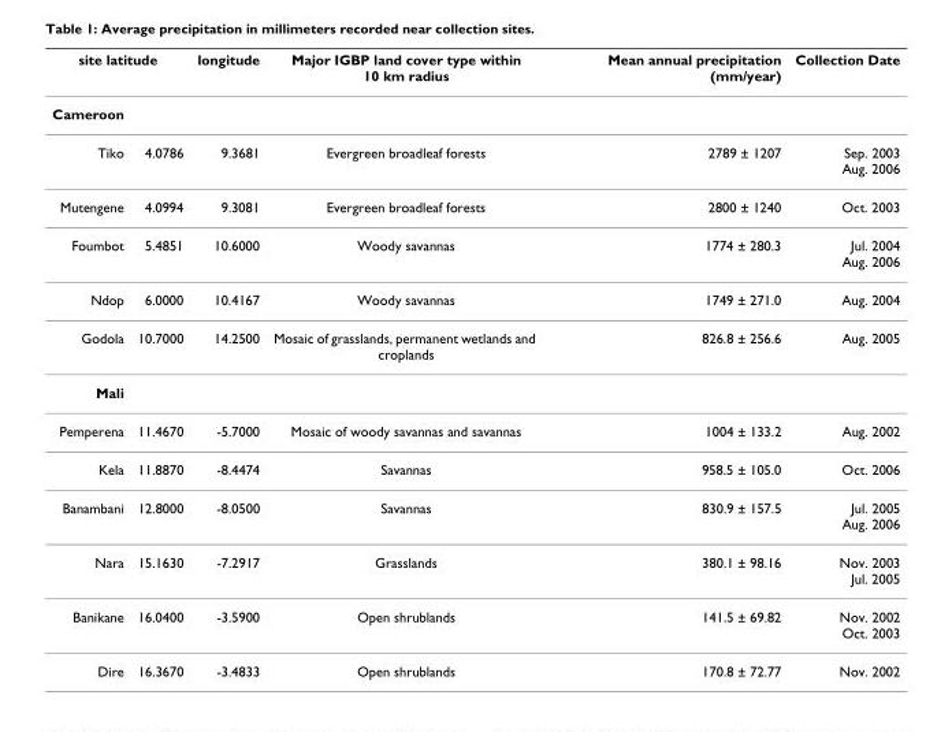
<table><thead><tr><td colspan="2">site latitude</td><td rowspan="2">longitude</td><td rowspan="2">Major IGBP land cover type within 10 km radius</td><td rowspan="2">Mean annual precipitation (mm/year)</td><td rowspan="2">Collection Date</td></tr><tr><td>Cameroon</td><td></td></tr></thead><tbody><tr><td>Tiko</td><td>4.0786</td><td>9.3681</td><td>Evergreen broadleaf forests</td><td>2789 ± 1207</td><td>Sep. 2003 Aug. 2006</td></tr><tr><td>Mutengene</td><td>4.0994</td><td>9.3081</td><td>Evergreen broadleaf forests</td><td>2800 ± 1240</td><td>Oct. 2003</td></tr><tr><td>Foumbot</td><td>5.4851</td><td>10.6000</td><td>Woody savannas</td><td>1774 ± 280.3</td><td>Jul. 2004 Aug. 2006</td></tr><tr><td>Ndop</td><td>6.0000</td><td>10.4167</td><td>Woody savannas</td><td>1749 ± 271.0</td><td>Aug. 2004</td></tr><tr><td>Godola</td><td>10.7000</td><td>14.2500</td><td>Mosaic of grasslands, permanent wetlands and croplands</td><td>826.8 ± 256.6</td><td>Aug. 2005</td></tr><tr><td colspan="6">Mali</td></tr><tr><td>Pemperena</td><td>11.4670</td><td>-5.7000</td><td>Mosaic of woody savannas and savannas</td><td>1004 ± 133.2</td><td>Aug. 2002</td></tr><tr><td>Kela</td><td>11.8870</td><td>-8.4474</td><td>Savannas</td><td>958.5 ± 105.0</td><td>Oct. 2006</td></tr><tr><td>Banambani</td><td>12.8000</td><td>-8.0500</td><td>Savannas</td><td>830.9 ± 157.5</td><td>Jul. 2005 Aug. 2006</td></tr><tr><td>Nara</td><td>15.1630</td><td>-7.2917</td><td>Grasslands</td><td>380.1 ± 98.16</td><td>Nov. 2003 Jul. 2005</td></tr><tr><td>Banikane</td><td>16.0400</td><td>-3.5900</td><td>Open shrublands</td><td>141.5 ± 69.82</td><td>Nov. 2002 Oct. 2003</td></tr><tr><td>Dire</td><td>16.3670</td><td>-3.4833</td><td>Open shrublands</td><td>170.8 ± 72.77</td><td>Nov. 2002</td></tr></tbody></table>